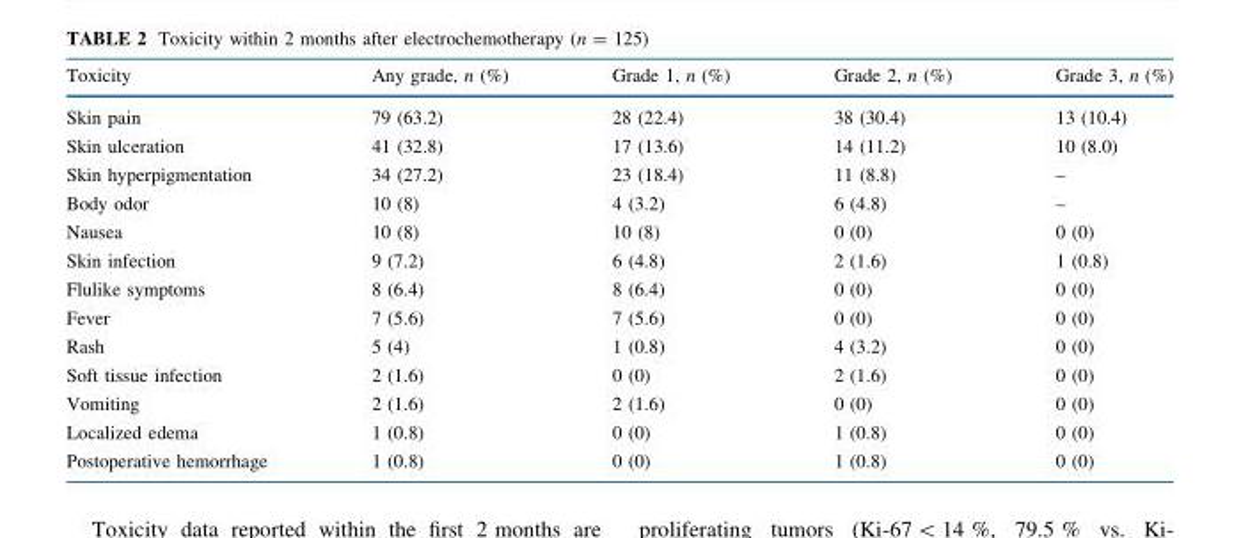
<table><thead><tr><td>Toxicity</td><td>Any grade, n (%)</td><td>Grade 1, n (%)</td><td>Grade 2, n (%)</td><td>Grade 3, n (%)</td></tr></thead><tbody><tr><td>Skin pain</td><td>79 (63.2)</td><td>28 (22.4)</td><td>38 (30.4)</td><td>13 (10.4)</td></tr><tr><td>Skin ulceration</td><td>41 (32.8)</td><td>17 (13.6)</td><td>14 (11.2)</td><td>10 (8.0)</td></tr><tr><td>Skin hyperpigmentation</td><td>34 (27.2)</td><td>23 (18.4)</td><td>11 (8.8)</td><td>–</td></tr><tr><td>Body odor</td><td>10 (8)</td><td>4 (3.2)</td><td>6 (4.8)</td><td>–</td></tr><tr><td>Nausea</td><td>10 (8)</td><td>10 (8)</td><td>0 (0)</td><td>0 (0)</td></tr><tr><td>Skin infection</td><td>9 (7.2)</td><td>6 (4.8)</td><td>2 (1.6)</td><td>1 (0.8)</td></tr><tr><td>Flulike symptoms</td><td>8 (6.4)</td><td>8 (6.4)</td><td>0 (0)</td><td>0 (0)</td></tr><tr><td>Fever</td><td>7 (5.6)</td><td>7 (5.6)</td><td>0 (0)</td><td>0 (0)</td></tr><tr><td>Rash</td><td>5 (4)</td><td>1 (0.8)</td><td>4 (3.2)</td><td>0 (0)</td></tr><tr><td>Soft tissue infection</td><td>2 (1.6)</td><td>0 (0)</td><td>2 (1.6)</td><td>0 (0)</td></tr><tr><td>Vomiting</td><td>2 (1.6)</td><td>2 (1.6)</td><td>0 (0)</td><td>0 (0)</td></tr><tr><td>Localized edema</td><td>1 (0.8)</td><td>0 (0)</td><td>1 (0.8)</td><td>0 (0)</td></tr><tr><td>Postoperative hemorrhage</td><td>1 (0.8)</td><td>0 (0)</td><td>1 (0.8)</td><td>0 (0)</td></tr></tbody></table>